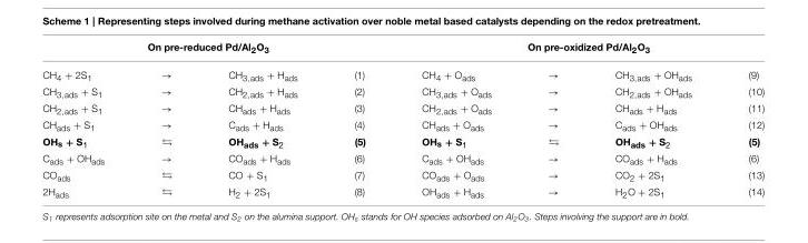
<table><thead><tr><td colspan="4">On pre-reduced Pd/Al<sub>2</sub>O<sub>3</sub></td><td colspan="4">On pre-oxidized Pd/Al<sub>2</sub>O<sub>3</sub></td></tr><tr><td>CH<sub>4</sub> + 2S<sub>1</sub></td><td>→</td><td>CH<sub>3,ads</sub> + H<sub>ads</sub></td><td>(1)</td><td>CH<sub>4</sub> + O<sub>ads</sub></td><td>→</td><td>CH<sub>3,ads</sub> + OH<sub>ads</sub></td><td>(9)</td></tr></thead><tbody><tr><td>CH<sub>3,ads</sub> + S<sub>1</sub></td><td>→</td><td>CH<sub>2,ads</sub> + H<sub>ads</sub></td><td>(2)</td><td>CH<sub>3,ads</sub> + O<sub>ads</sub></td><td>→</td><td>CH<sub>2,ads</sub> + OH<sub>ads</sub></td><td>(10)</td></tr><tr><td>CH<sub>2,ads</sub> + S<sub>1</sub></td><td>→</td><td>CH<sub>ads</sub> + H<sub>ads</sub></td><td>(3)</td><td>CH<sub>2,ads</sub> + O<sub>ads</sub></td><td>→</td><td>CH<sub>ads</sub> + H<sub>ads</sub></td><td>(11)</td></tr><tr><td>CH<sub>ads</sub> + S<sub>1</sub></td><td>→</td><td>C<sub>ads</sub> + H<sub>ads</sub></td><td>(4)</td><td>CH<sub>ads</sub> + O<sub>ads</sub></td><td>→</td><td>C<sub>ads</sub> + OH<sub>ads</sub></td><td>(12)</td></tr><tr><td>OH<sub>s</sub> + S<sub>1</sub></td><td>⇆</td><td>OH<sub>ads</sub> + S<sub>2</sub></td><td>(5)</td><td>OH<sub>s</sub> + S<sub>1</sub></td><td>⇆</td><td>OH<sub>ads</sub> + S<sub>2</sub></td><td>(5)</td></tr><tr><td>C<sub>ads</sub> + OH<sub>ads</sub></td><td>→</td><td>CO<sub>ads</sub> + H<sub>ads</sub></td><td>(6)</td><td>C<sub>ads</sub> + OH<sub>ads</sub></td><td>→</td><td>CO<sub>ads</sub> + H<sub>ads</sub></td><td>(6)</td></tr><tr><td>CO<sub>ads</sub></td><td>⇆</td><td>CO + S<sub>1</sub></td><td>(7)</td><td>CO<sub>ads</sub> + O<sub>ads</sub></td><td>→</td><td>CO<sub>2</sub> + 2S<sub>1</sub></td><td>(13)</td></tr><tr><td>2H<sub>ads</sub></td><td>⇆</td><td>H<sub>2</sub> + 2S<sub>1</sub></td><td>(8)</td><td>OH<sub>ads</sub> + H<sub>ads</sub></td><td>→</td><td>H<sub>2</sub>O + 2S<sub>1</sub></td><td>(14)</td></tr></tbody></table>